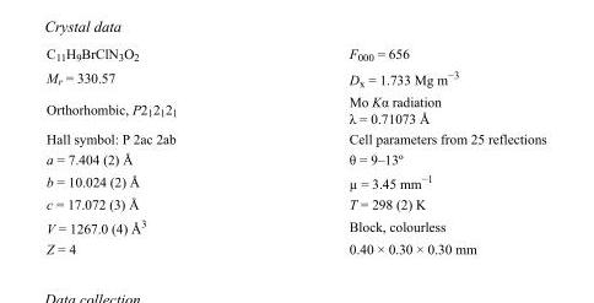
<table><tbody><tr><td>C<sub>11</sub>H<sub>9</sub>BrClN<sub>3</sub>O<sub>2</sub></td><td>F000 = 656</td></tr><tr><td>M<sub>r</sub> = 330.57</td><td>D<sub>x</sub> = 1.733 Mg m<sup>−3</sup></td></tr><tr><td>Orthorhombic, P2<sub>1</sub>2<sub>1</sub>2<sub>1</sub></td><td>Mo Kα radiation λ = 0.71073 Å</td></tr><tr><td>Hall symbol: P 2ac 2ab</td><td>Cell parameters from 25 reflections</td></tr><tr><td>a = 7.404 (2) Å</td><td>θ = 9–13º</td></tr><tr><td>b = 10.024 (2) Å</td><td>µ = 3.45 mm<sup>−1</sup></td></tr><tr><td>c = 17.072 (3) Å</td><td>T = 298 (2) K</td></tr><tr><td>V = 1267.0 (4) Å<sup>3</sup></td><td>Block, colourless</td></tr><tr><td>Z = 4</td><td>0.40 × 0.30 × 0.30 mm</td></tr></tbody></table>